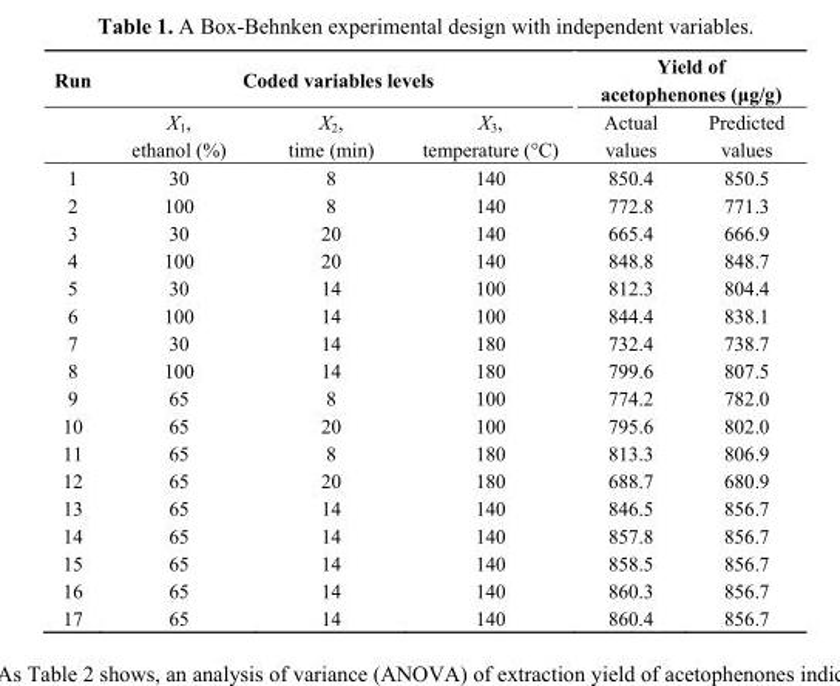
<table><thead><tr><td rowspan="2">Run</td><td colspan="3">Coded variables levels</td><td colspan="2">Yield of acetophenones (μg/g)</td></tr><tr><td>X<sub>1</sub>, ethanol (%)</td><td>X<sub>2</sub>, time (min)</td><td>X<sub>3</sub>, temperature (°C)</td><td>Actual values</td><td>Predicted values</td></tr></thead><tbody><tr><td>1</td><td>30</td><td>8</td><td>140</td><td>850.4</td><td>850.5</td></tr><tr><td>2</td><td>100</td><td>8</td><td>140</td><td>772.8</td><td>771.3</td></tr><tr><td>3</td><td>30</td><td>20</td><td>140</td><td>665.4</td><td>666.9</td></tr><tr><td>4</td><td>100</td><td>20</td><td>140</td><td>848.8</td><td>848.7</td></tr><tr><td>5</td><td>30</td><td>14</td><td>100</td><td>812.3</td><td>804.4</td></tr><tr><td>6</td><td>100</td><td>14</td><td>100</td><td>844.4</td><td>838.1</td></tr><tr><td>7</td><td>30</td><td>14</td><td>180</td><td>732.4</td><td>738.7</td></tr><tr><td>8</td><td>100</td><td>14</td><td>180</td><td>799.6</td><td>807.5</td></tr><tr><td>9</td><td>65</td><td>8</td><td>100</td><td>774.2</td><td>782.0</td></tr><tr><td>10</td><td>65</td><td>20</td><td>100</td><td>795.6</td><td>802.0</td></tr><tr><td>11</td><td>65</td><td>8</td><td>180</td><td>813.3</td><td>806.9</td></tr><tr><td>12</td><td>65</td><td>20</td><td>180</td><td>688.7</td><td>680.9</td></tr><tr><td>13</td><td>65</td><td>14</td><td>140</td><td>846.5</td><td>856.7</td></tr><tr><td>14</td><td>65</td><td>14</td><td>140</td><td>857.8</td><td>856.7</td></tr><tr><td>15</td><td>65</td><td>14</td><td>140</td><td>858.5</td><td>856.7</td></tr><tr><td>16</td><td>65</td><td>14</td><td>140</td><td>860.3</td><td>856.7</td></tr><tr><td>17</td><td>65</td><td>14</td><td>140</td><td>860.4</td><td>856.7</td></tr></tbody></table>